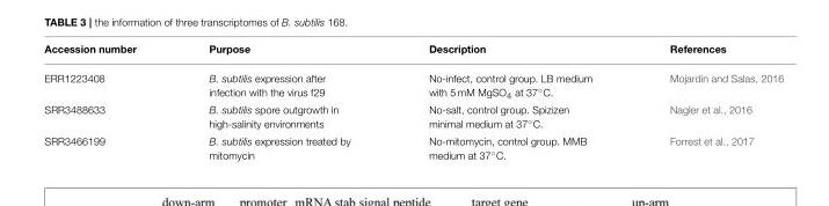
<table><thead><tr><td>Accession number</td><td>Purpose</td><td>Description</td><td>References</td></tr></thead><tbody><tr><td>ERR1223408</td><td>B. subtilis expression after infection with the virus f29</td><td>No-infect, control group. LB medium with 5 mM MgSO4 at 37◦C.</td><td>Mojardín and Salas, 2016</td></tr><tr><td>SRR3488633</td><td>B. subtilis spore outgrowth in high-salinity environments</td><td>No-salt, control group. Spizizen minimal medium at 37◦C.</td><td>Nagler et al., 2016</td></tr><tr><td>SRR3466199</td><td>B. subtilis expression treated by mitomycin</td><td>No-mitomycin, control group. MMB medium at 37◦C.</td><td>Forrest et al., 2017</td></tr></tbody></table>